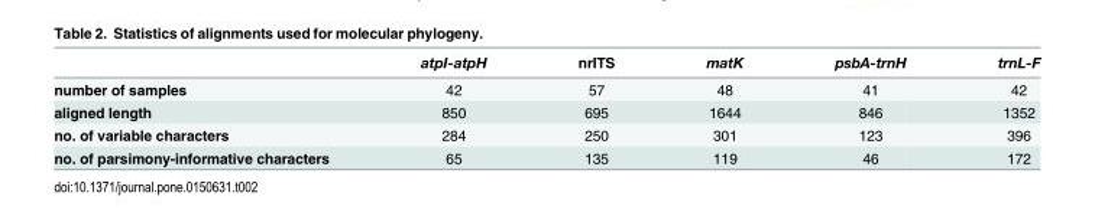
<table><thead><tr><td></td><td>atpI-atpH</td><td>nrITS</td><td>matK</td><td>psbA-trnH</td><td>trnL-F</td></tr></thead><tbody><tr><td>number of samples</td><td>42</td><td>57</td><td>48</td><td>41</td><td>42</td></tr><tr><td>aligned length</td><td>850</td><td>695</td><td>1644</td><td>846</td><td>1352</td></tr><tr><td>no. of variable characters</td><td>284</td><td>250</td><td>301</td><td>123</td><td>396</td></tr><tr><td>no. of parsimony-informative characters</td><td>65</td><td>135</td><td>119</td><td>46</td><td>172</td></tr></tbody></table>